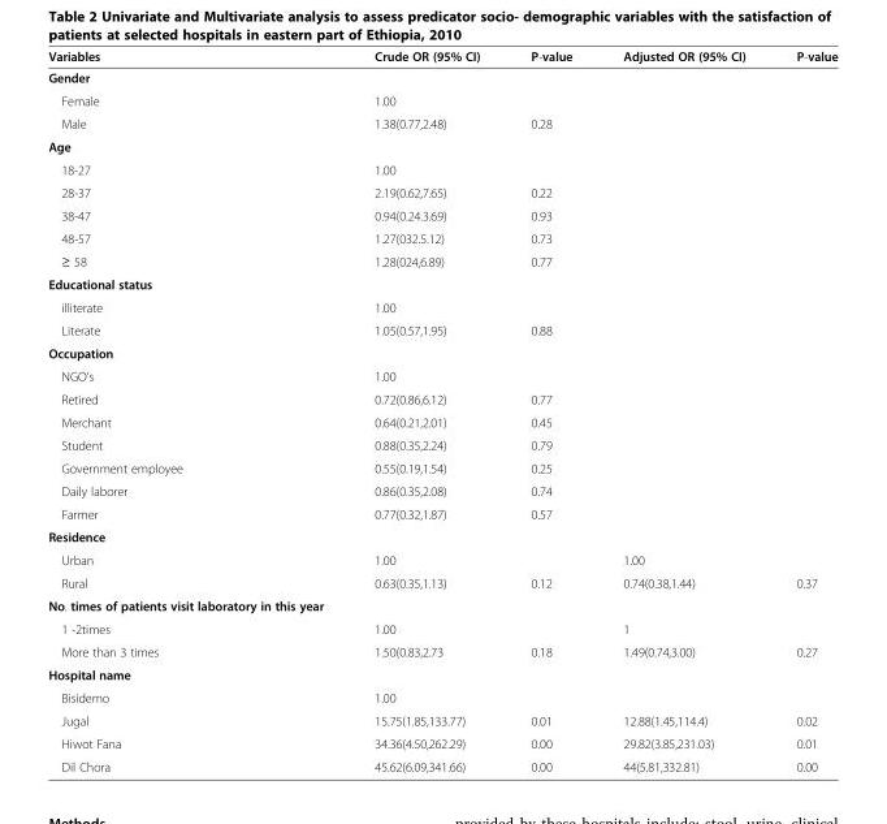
<table><thead><tr><td>Variables</td><td>Crude OR (95% CI)</td><td>P-value</td><td>Adjusted OR (95% CI)</td><td>P-value</td></tr></thead><tbody><tr><td colspan="5">Gender</td></tr><tr><td>Female</td><td>1.00</td><td></td><td></td><td></td></tr><tr><td>Male</td><td>1.38(0.77,2.48)</td><td>0.28</td><td></td><td></td></tr><tr><td colspan="5">Age</td></tr><tr><td>18-27</td><td>1.00</td><td></td><td></td><td></td></tr><tr><td>28-37</td><td>2.19(0.62,7.65)</td><td>0.22</td><td></td><td></td></tr><tr><td>38-47</td><td>0.94(0.24.3.69)</td><td>0.93</td><td></td><td></td></tr><tr><td>48-57</td><td>1.27(032.5.12)</td><td>0.73</td><td></td><td></td></tr><tr><td>≥ 58</td><td>1.28(024,6.89)</td><td>0.77</td><td></td><td></td></tr><tr><td colspan="5">Educational status</td></tr><tr><td>illiterate</td><td>1.00</td><td></td><td></td><td></td></tr><tr><td>Literate</td><td>1.05(0.57,1.95)</td><td>0.88</td><td></td><td></td></tr><tr><td colspan="5">Occupation</td></tr><tr><td>NGO’s</td><td>1.00</td><td></td><td></td><td></td></tr><tr><td>Retired</td><td>0.72(0.86,6.12)</td><td>0.77</td><td></td><td></td></tr><tr><td>Merchant</td><td>0.64(0.21,2.01)</td><td>0.45</td><td></td><td></td></tr><tr><td>Student</td><td>0.88(0.35,2.24)</td><td>0.79</td><td></td><td></td></tr><tr><td>Government employee</td><td>0.55(0.19,1.54)</td><td>0.25</td><td></td><td></td></tr><tr><td>Daily laborer</td><td>0.86(0.35,2.08)</td><td>0.74</td><td></td><td></td></tr><tr><td>Farmer</td><td>0.77(0.32,1.87)</td><td>0.57</td><td></td><td></td></tr><tr><td colspan="5">Residence</td></tr><tr><td>Urban</td><td>1.00</td><td></td><td>1.00</td><td></td></tr><tr><td>Rural</td><td>0.63(0.35,1.13)</td><td>0.12</td><td>0.74(0.38,1.44)</td><td>0.37</td></tr><tr><td colspan="5">No. times of patients visit laboratory in this year</td></tr><tr><td>1 -2times</td><td>1.00</td><td></td><td>1</td><td></td></tr><tr><td>More than 3 times</td><td>1.50(0.83,2.73</td><td>0.18</td><td>1.49(0.74,3.00)</td><td>0.27</td></tr><tr><td colspan="5">Hospital name</td></tr><tr><td>Bisidemo</td><td>1.00</td><td></td><td></td><td></td></tr><tr><td>Jugal</td><td>15.75(1.85,133.77)</td><td>0.01</td><td>12.88(1.45,114.4)</td><td>0.02</td></tr><tr><td>Hiwot Fana</td><td>34.36(4.50,262.29)</td><td>0.00</td><td>29.82(3.85,231.03)</td><td>0.01</td></tr><tr><td>Dil Chora</td><td>45.62(6.09,341.66)</td><td>0.00</td><td>44(5.81,332.81)</td><td>0.00</td></tr></tbody></table>